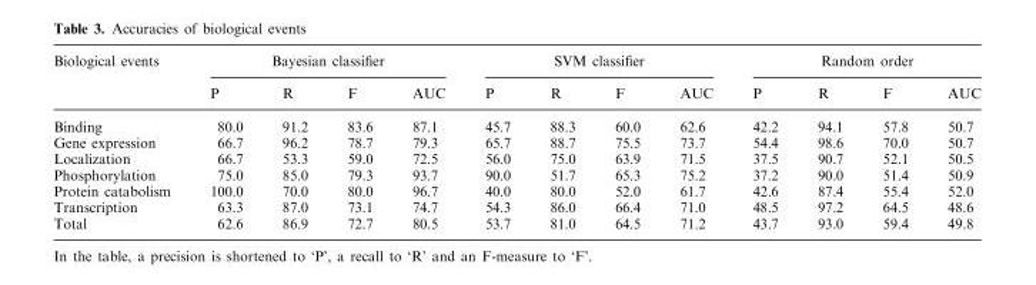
<table><thead><tr><td rowspan="2">Biological events</td><td colspan="4">Bayesian classifier</td><td colspan="4">SVM classifier</td><td colspan="4">Random order</td></tr><tr><td>P</td><td>R</td><td>F</td><td>AUC</td><td>P</td><td>R</td><td>F</td><td>AUC</td><td>P</td><td>R</td><td>F</td><td>AUC</td></tr></thead><tbody><tr><td>Binding</td><td>80.0</td><td>91.2</td><td>83.6</td><td>87.1</td><td>45.7</td><td>88.3</td><td>60.0</td><td>62.6</td><td>42.2</td><td>94.1</td><td>57.8</td><td>50.7</td></tr><tr><td>Gene expression</td><td>66.7</td><td>96.2</td><td>78.7</td><td>79.3</td><td>65.7</td><td>88.7</td><td>75.5</td><td>73.7</td><td>54.4</td><td>98.6</td><td>70.0</td><td>50.7</td></tr><tr><td>Localization</td><td>66.7</td><td>53.3</td><td>59.0</td><td>72.5</td><td>56.0</td><td>75.0</td><td>63.9</td><td>71.5</td><td>37.5</td><td>90.7</td><td>52.1</td><td>50.5</td></tr><tr><td>Phosphorylation</td><td>75.0</td><td>85.0</td><td>79.3</td><td>93.7</td><td>90.0</td><td>51.7</td><td>65.3</td><td>75.2</td><td>37.2</td><td>90.0</td><td>51.4</td><td>50.9</td></tr><tr><td>Protein catabolism</td><td>100.0</td><td>70.0</td><td>80.0</td><td>96.7</td><td>40.0</td><td>80.0</td><td>52.0</td><td>61.7</td><td>42.6</td><td>87.4</td><td>55.4</td><td>52.0</td></tr><tr><td>Transcription</td><td>63.3</td><td>87.0</td><td>73.1</td><td>74.7</td><td>54.3</td><td>86.0</td><td>66.4</td><td>71.0</td><td>48.5</td><td>97.2</td><td>64.5</td><td>48.6</td></tr><tr><td>Total</td><td>62.6</td><td>86.9</td><td>72.7</td><td>80.5</td><td>53.7</td><td>81.0</td><td>64.5</td><td>71.2</td><td>43.7</td><td>93.0</td><td>59.4</td><td>49.8</td></tr></tbody></table>